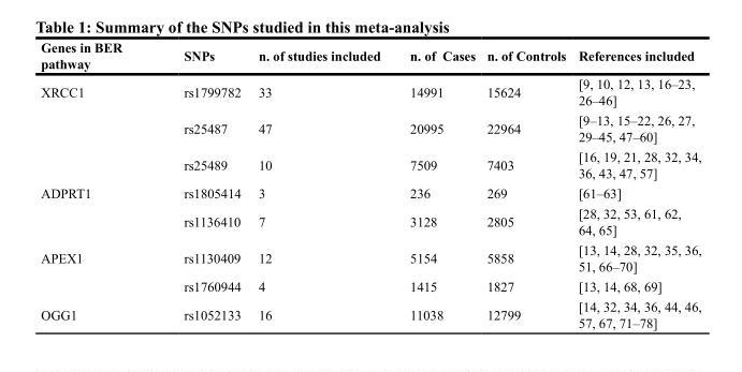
<table><thead><tr><td>Genes in BER pathway</td><td>SNPs</td><td>n. of studies included</td><td>n. of Cases</td><td>n. of Controls</td><td>References included</td></tr></thead><tbody><tr><td rowspan="3">XRCC1</td><td>rs1799782</td><td>33</td><td>14991</td><td>15624</td><td>[9, 10, 12, 13, 16–23, 26–46]</td></tr><tr><td>rs25487</td><td>47</td><td>20995</td><td>22964</td><td>[9–13, 15–22, 26, 27, 29–45, 47–60]</td></tr><tr><td>rs25489</td><td>10</td><td>7509</td><td>7403</td><td>[16, 19, 21, 28, 32, 34, 36, 43, 47, 57]</td></tr><tr><td rowspan="2">ADPRT1</td><td>rs1805414</td><td>3</td><td>236</td><td>269</td><td>[61–63]</td></tr><tr><td>rs1136410</td><td>7</td><td>3128</td><td>2805</td><td>[28, 32, 53, 61, 62, 64, 65]</td></tr><tr><td rowspan="2">APEX1</td><td>rs1130409</td><td>12</td><td>5154</td><td>5858</td><td>[13, 14, 28, 32, 35, 36, 51, 66–70]</td></tr><tr><td>rs1760944</td><td>4</td><td>1415</td><td>1827</td><td>[13, 14, 68, 69]</td></tr><tr><td>OGG1</td><td>rs1052133</td><td>16</td><td>11038</td><td>12799</td><td>[14, 32, 34, 36, 44, 46, 57, 67, 71–78]</td></tr></tbody></table>